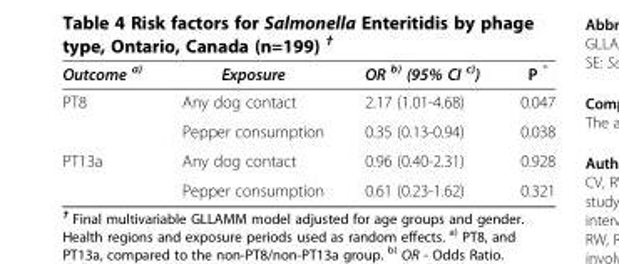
<table><thead><tr><td>Outcome <sup>a)</sup></td><td>Exposure</td><td>OR <sup>b)</sup> (95% CI <sup>c)</sup>)</td><td>P *</td></tr></thead><tbody><tr><td rowspan="2">PT8</td><td>Any dog contact</td><td>2.17 (1.01-4.68)</td><td>0.047</td></tr><tr><td>Pepper consumption</td><td>0.35 (0.13-0.94)</td><td>0.038</td></tr><tr><td rowspan="2">PT13a</td><td>Any dog contact</td><td>0.96 (0.40-2.31)</td><td>0.928</td></tr><tr><td>Pepper consumption</td><td>0.61 (0.23-1.62)</td><td>0.321</td></tr></tbody></table>